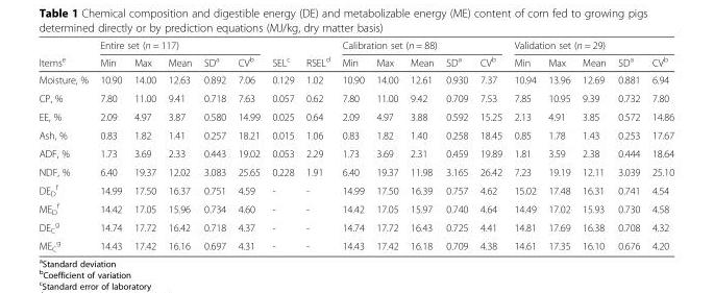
<table><thead><tr><td rowspan="2">Items<sup>e</sup></td><td colspan="5">Entire set (n = 117)</td><td rowspan="2">SEL<sup>c</sup></td><td rowspan="2">RSEL<sup>d</sup></td><td colspan="5">Calibration set (n = 88)</td><td colspan="5">Validation set (n = 29)</td></tr><tr><td>Min</td><td>Max</td><td>Mean</td><td>SD<sup>a</sup></td><td>CV<sup>b</sup></td><td>Min</td><td>Max</td><td>Mean</td><td>SD<sup>a</sup></td><td>CV<sup>b</sup></td><td>Min</td><td>Max</td><td>Mean</td><td>SD<sup>a</sup></td><td>CV<sup>b</sup></td></tr></thead><tbody><tr><td>Moisture, %</td><td>10.90</td><td>14.00</td><td>12.63</td><td>0.892</td><td>7.06</td><td>0.129</td><td>1.02</td><td>10.90</td><td>14.00</td><td>12.61</td><td>0.930</td><td>7.37</td><td>10.94</td><td>13.96</td><td>12.69</td><td>0.881</td><td>6.94</td></tr><tr><td>CP, %</td><td>7.80</td><td>11.00</td><td>9.41</td><td>0.718</td><td>7.63</td><td>0.057</td><td>0.62</td><td>7.80</td><td>11.00</td><td>9.42</td><td>0.709</td><td>7.53</td><td>7.85</td><td>10.95</td><td>9.39</td><td>0.732</td><td>7.80</td></tr><tr><td>EE, %</td><td>2.09</td><td>4.97</td><td>3.87</td><td>0.580</td><td>14.99</td><td>0.025</td><td>0.64</td><td>2.09</td><td>4.97</td><td>3.88</td><td>0.592</td><td>15.25</td><td>2.13</td><td>4.91</td><td>3.85</td><td>0.572</td><td>14.86</td></tr><tr><td>Ash, %</td><td>0.83</td><td>1.82</td><td>1.41</td><td>0.257</td><td>18.21</td><td>0.015</td><td>1.06</td><td>0.83</td><td>1.82</td><td>1.40</td><td>0.258</td><td>18.45</td><td>0.85</td><td>1.78</td><td>1.43</td><td>0.253</td><td>17.67</td></tr><tr><td>ADF, %</td><td>1.73</td><td>3.69</td><td>2.33</td><td>0.443</td><td>19.02</td><td>0.053</td><td>2.29</td><td>1.73</td><td>3.69</td><td>2.31</td><td>0.459</td><td>19.89</td><td>1.81</td><td>3.59</td><td>2.38</td><td>0.444</td><td>18.64</td></tr><tr><td>NDF, %</td><td>6.40</td><td>19.37</td><td>12.02</td><td>3.083</td><td>25.65</td><td>0.228</td><td>1.91</td><td>6.40</td><td>19.37</td><td>11.98</td><td>3.165</td><td>26.42</td><td>7.23</td><td>19.19</td><td>12.11</td><td>3.039</td><td>25.10</td></tr><tr><td>DE<sub>D</sub> <sup>f</sup></td><td>14.99</td><td>17.50</td><td>16.37</td><td>0.751</td><td>4.59</td><td>-</td><td>-</td><td>14.99</td><td>17.50</td><td>16.39</td><td>0.757</td><td>4.62</td><td>15.02</td><td>17.48</td><td>16.31</td><td>0.741</td><td>4.54</td></tr><tr><td>ME<sub>D</sub> <sup>f</sup></td><td>14.42</td><td>17.05</td><td>15.96</td><td>0.734</td><td>4.60</td><td>-</td><td>-</td><td>14.42</td><td>17.05</td><td>15.97</td><td>0.740</td><td>4.64</td><td>14.49</td><td>17.02</td><td>15.93</td><td>0.730</td><td>4.58</td></tr><tr><td>DE<sub>C</sub> <sup>g</sup></td><td>14.74</td><td>17.72</td><td>16.42</td><td>0.718</td><td>4.37</td><td>-</td><td>-</td><td>14.74</td><td>17.72</td><td>16.43</td><td>0.725</td><td>4.41</td><td>14.81</td><td>17.69</td><td>16.38</td><td>0.708</td><td>4.32</td></tr><tr><td>ME<sub>C</sub> <sup>g</sup></td><td>14.43</td><td>17.42</td><td>16.16</td><td>0.697</td><td>4.31</td><td>-</td><td>-</td><td>14.43</td><td>17.42</td><td>16.18</td><td>0.709</td><td>4.38</td><td>14.61</td><td>17.35</td><td>16.10</td><td>0.676</td><td>4.20</td></tr></tbody></table>